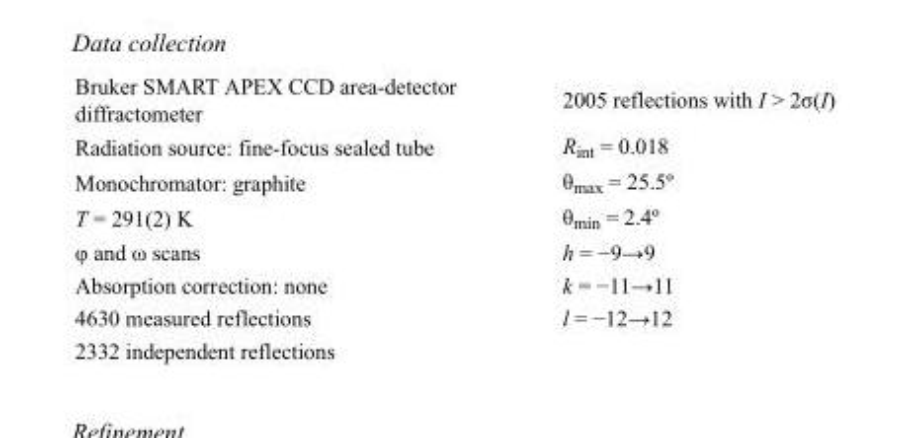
<table><tbody><tr><td>Bruker SMART APEX CCD area-detector diffractometer</td><td>2005 reflections with I &gt; 2σ(I)</td></tr><tr><td>Radiation source: fine-focus sealed tube</td><td>R<sub>int</sub> = 0.018</td></tr><tr><td>Monochromator: graphite</td><td>θ<sub>max</sub> = 25.5º</td></tr><tr><td>T = 291(2) K</td><td>θ<sub>min</sub> = 2.4º</td></tr><tr><td>φ and ω scans</td><td>h = −9→9</td></tr><tr><td>Absorption correction: none</td><td>k = −11→11</td></tr><tr><td>4630 measured reflections</td><td>l = −12→12</td></tr><tr><td>2332 independent reflections</td><td></td></tr></tbody></table>